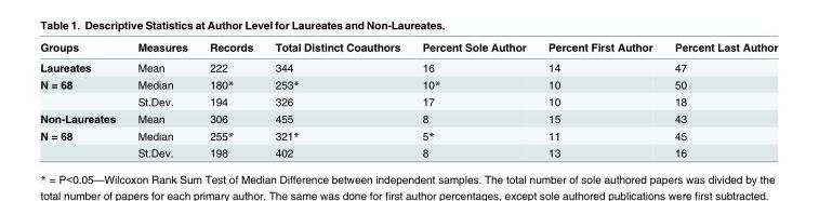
<table><thead><tr><td>Groups</td><td>Measures</td><td>Records</td><td>Total Distinct Coauthors</td><td>Percent Sole Author</td><td>Percent First Author</td><td>Percent Last Author</td></tr></thead><tbody><tr><td>Laureates</td><td>Mean</td><td>222</td><td>344</td><td>16</td><td>14</td><td>47</td></tr><tr><td rowspan="2">N = 68</td><td>Median</td><td>180*</td><td>253*</td><td>10*</td><td>10</td><td>50</td></tr><tr><td>St.Dev.</td><td>194</td><td>326</td><td>17</td><td>10</td><td>18</td></tr><tr><td>Non-Laureates</td><td>Mean</td><td>306</td><td>455</td><td>8</td><td>15</td><td>43</td></tr><tr><td rowspan="2">N = 68</td><td>Median</td><td>255*</td><td>321*</td><td>5*</td><td>11</td><td>45</td></tr><tr><td>St.Dev.</td><td>198</td><td>402</td><td>8</td><td>13</td><td>16</td></tr></tbody></table>